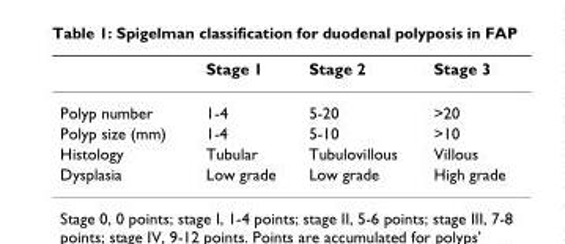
<table><thead><tr><td></td><td>Stage 1</td><td>Stage 2</td><td>Stage 3</td></tr></thead><tbody><tr><td>Polyp number</td><td>1-4</td><td>5-20</td><td>&gt;20</td></tr><tr><td>Polyp size (mm)</td><td>1-4</td><td>5-10</td><td>&gt;10</td></tr><tr><td>Histology</td><td>Tubular</td><td>Tubulovillous</td><td>Villous</td></tr><tr><td>Dysplasia</td><td>Low grade</td><td>Low grade</td><td>High grade</td></tr></tbody></table>